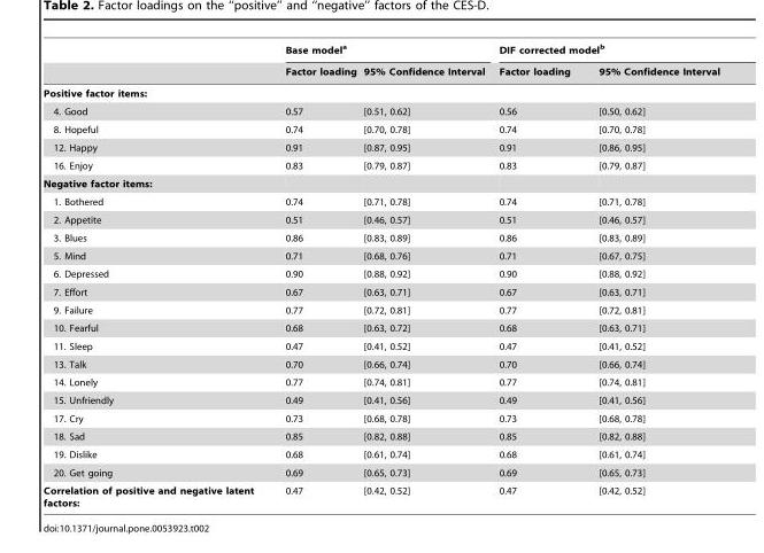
<table><thead><tr><td rowspan="2"></td><td colspan="2">Base model<sup>a</sup></td><td colspan="2">DIF corrected model<sup>b</sup></td></tr><tr><td>Factor loading</td><td>95% Confidence Interval</td><td>Factor loading</td><td>95% Confidence Interval</td></tr></thead><tbody><tr><td colspan="5">Positive factor items:</td></tr><tr><td>4. Good</td><td>0.57</td><td>[0.51, 0.62]</td><td>0.56</td><td>[0.50, 0.62]</td></tr><tr><td>8. Hopeful</td><td>0.74</td><td>[0.70, 0.78]</td><td>0.74</td><td>[0.70, 0.78]</td></tr><tr><td>12. Happy</td><td>0.91</td><td>[0.87, 0.95]</td><td>0.91</td><td>[0.86, 0.95]</td></tr><tr><td>16. Enjoy</td><td>0.83</td><td>[0.79, 0.87]</td><td>0.83</td><td>[0.79, 0.87]</td></tr><tr><td colspan="5">Negative factor items:</td></tr><tr><td>1. Bothered</td><td>0.74</td><td>[0.71, 0.78]</td><td>0.74</td><td>[0.71, 0.78]</td></tr><tr><td>2. Appetite</td><td>0.51</td><td>[0.46, 0.57]</td><td>0.51</td><td>[0.46, 0.57]</td></tr><tr><td>3. Blues</td><td>0.86</td><td>[0.83, 0.89]</td><td>0.86</td><td>[0.83, 0.89]</td></tr><tr><td>5. Mind</td><td>0.71</td><td>[0.68, 0.76]</td><td>0.71</td><td>[0.67, 0.75]</td></tr><tr><td>6. Depressed</td><td>0.90</td><td>[0.88, 0.92]</td><td>0.90</td><td>[0.88, 0.92]</td></tr><tr><td>7. Effort</td><td>0.67</td><td>[0.63, 0.71]</td><td>0.67</td><td>[0.63, 0.71]</td></tr><tr><td>9. Failure</td><td>0.77</td><td>[0.72, 0.81]</td><td>0.77</td><td>[0.72, 0.81]</td></tr><tr><td>10. Fearful</td><td>0.68</td><td>[0.63, 0.72]</td><td>0.68</td><td>[0.63, 0.71]</td></tr><tr><td>11. Sleep</td><td>0.47</td><td>[0.41, 0.52]</td><td>0.47</td><td>[0.41, 0.52]</td></tr><tr><td>13. Talk</td><td>0.70</td><td>[0.66, 0.74]</td><td>0.70</td><td>[0.66, 0.74]</td></tr><tr><td>14. Lonely</td><td>0.77</td><td>[0.74, 0.81]</td><td>0.77</td><td>[0.74, 0.81]</td></tr><tr><td>15. Unfriendly</td><td>0.49</td><td>[0.41, 0.56]</td><td>0.49</td><td>[0.41, 0.56]</td></tr><tr><td>17. Cry</td><td>0.73</td><td>[0.68, 0.78]</td><td>0.73</td><td>[0.68, 0.78]</td></tr><tr><td>18. Sad</td><td>0.85</td><td>[0.82, 0.88]</td><td>0.85</td><td>[0.82, 0.88]</td></tr><tr><td>19. Dislike</td><td>0.68</td><td>[0.61, 0.74]</td><td>0.68</td><td>[0.61, 0.74]</td></tr><tr><td>20. Get going</td><td>0.69</td><td>[0.65, 0.73]</td><td>0.69</td><td>[0.65, 0.73]</td></tr><tr><td>Correlation of positive and negative latent factors:</td><td>0.47</td><td>[0.42, 0.52]</td><td>0.47</td><td>[0.42, 0.52]</td></tr></tbody></table>